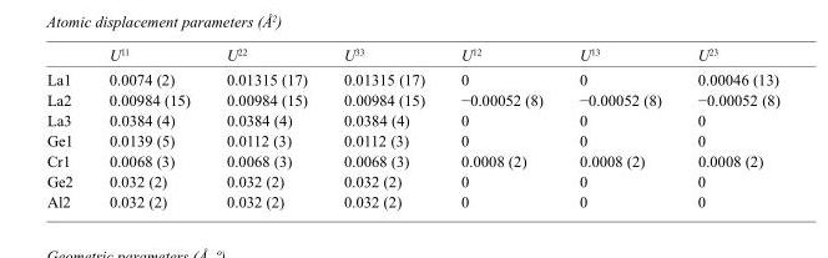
<table><thead><tr><td></td><td>U<sup>11</sup></td><td>U<sup>22</sup></td><td>U<sup>33</sup></td><td>U<sup>12</sup></td><td>U<sup>13</sup></td><td>U<sup>23</sup></td></tr></thead><tbody><tr><td>La1</td><td>0.0074 (2)</td><td>0.01315 (17)</td><td>0.01315 (17)</td><td>0</td><td>0</td><td>0.00046 (13)</td></tr><tr><td>La2</td><td>0.00984 (15)</td><td>0.00984 (15)</td><td>0.00984 (15)</td><td>−0.00052 (8)</td><td>−0.00052 (8)</td><td>−0.00052 (8)</td></tr><tr><td>La3</td><td>0.0384 (4)</td><td>0.0384 (4)</td><td>0.0384 (4)</td><td>0</td><td>0</td><td>0</td></tr><tr><td>Ge1</td><td>0.0139 (5)</td><td>0.0112 (3)</td><td>0.0112 (3)</td><td>0</td><td>0</td><td>0</td></tr><tr><td>Cr1</td><td>0.0068 (3)</td><td>0.0068 (3)</td><td>0.0068 (3)</td><td>0.0008 (2)</td><td>0.0008 (2)</td><td>0.0008 (2)</td></tr><tr><td>Ge2</td><td>0.032 (2)</td><td>0.032 (2)</td><td>0.032 (2)</td><td>0</td><td>0</td><td>0</td></tr><tr><td>Al2</td><td>0.032 (2)</td><td>0.032 (2)</td><td>0.032 (2)</td><td>0</td><td>0</td><td>0</td></tr></tbody></table>